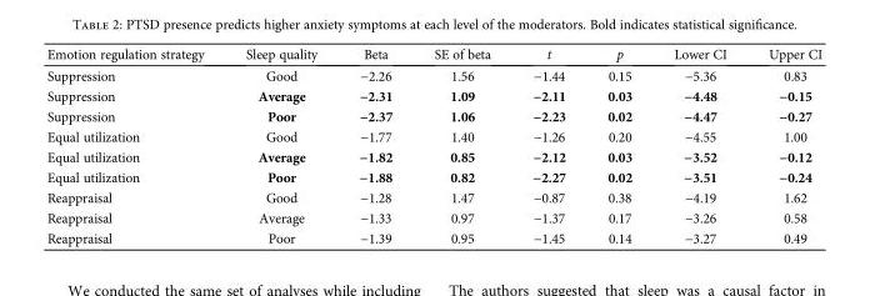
<table><thead><tr><td>Emotion regulation strategy</td><td>Sleep quality</td><td>Beta</td><td>SE of beta</td><td>t</td><td>p</td><td>Lower CI</td><td>Upper CI</td></tr></thead><tbody><tr><td>Suppression</td><td>Good</td><td>−2.26</td><td>1.56</td><td>−1.44</td><td>0.15</td><td>−5.36</td><td>0.83</td></tr><tr><td>Suppression</td><td>Average</td><td>−2.31</td><td>1.09</td><td>−2.11</td><td>0.03</td><td>−4.48</td><td>−0.15</td></tr><tr><td>Suppression</td><td>Poor</td><td>−2.37</td><td>1.06</td><td>−2.23</td><td>0.02</td><td>−4.47</td><td>−0.27</td></tr><tr><td>Equal utilization</td><td>Good</td><td>−1.77</td><td>1.40</td><td>−1.26</td><td>0.20</td><td>−4.55</td><td>1.00</td></tr><tr><td>Equal utilization</td><td>Average</td><td>−1.82</td><td>0.85</td><td>−2.12</td><td>0.03</td><td>−3.52</td><td>−0.12</td></tr><tr><td>Equal utilization</td><td>Poor</td><td>−1.88</td><td>0.82</td><td>−2.27</td><td>0.02</td><td>−3.51</td><td>−0.24</td></tr><tr><td>Reappraisal</td><td>Good</td><td>−1.28</td><td>1.47</td><td>−0.87</td><td>0.38</td><td>−4.19</td><td>1.62</td></tr><tr><td>Reappraisal</td><td>Average</td><td>−1.33</td><td>0.97</td><td>−1.37</td><td>0.17</td><td>−3.26</td><td>0.58</td></tr><tr><td>Reappraisal</td><td>Poor</td><td>−1.39</td><td>0.95</td><td>−1.45</td><td>0.14</td><td>−3.27</td><td>0.49</td></tr></tbody></table>